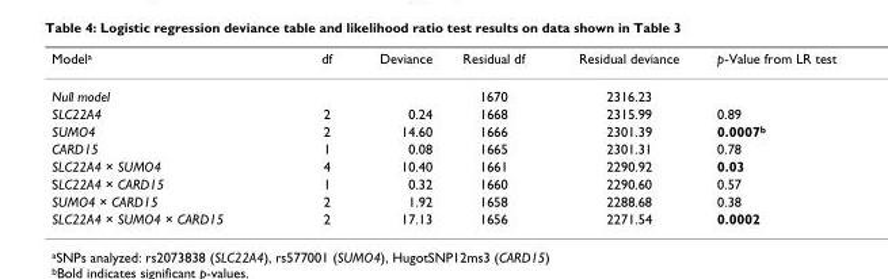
<table><thead><tr><td>Model<sup>a</sup></td><td>df</td><td>Deviance</td><td>Residual df</td><td>Residual deviance</td><td>p-Value from LR test</td></tr></thead><tbody><tr><td>Null model</td><td></td><td></td><td>1670</td><td>2316.23</td><td></td></tr><tr><td>SLC22A4</td><td>2</td><td>0.24</td><td>1668</td><td>2315.99</td><td>0.89</td></tr><tr><td>SUMO4</td><td>2</td><td>14.60</td><td>1666</td><td>2301.39</td><td>0.0007<sup>b</sup></td></tr><tr><td>CARD15</td><td>1</td><td>0.08</td><td>1665</td><td>2301.31</td><td>0.78</td></tr><tr><td>SLC22A4 × SUMO4</td><td>4</td><td>10.40</td><td>1661</td><td>2290.92</td><td>0.03</td></tr><tr><td>SLC22A4 × CARD15</td><td>1</td><td>0.32</td><td>1660</td><td>2290.60</td><td>0.57</td></tr><tr><td>SUMO4 × CARD15</td><td>2</td><td>1.92</td><td>1658</td><td>2288.68</td><td>0.38</td></tr><tr><td>SLC22A4 × SUMO4 × CARD15</td><td>2</td><td>17.13</td><td>1656</td><td>2271.54</td><td>0.0002</td></tr></tbody></table>